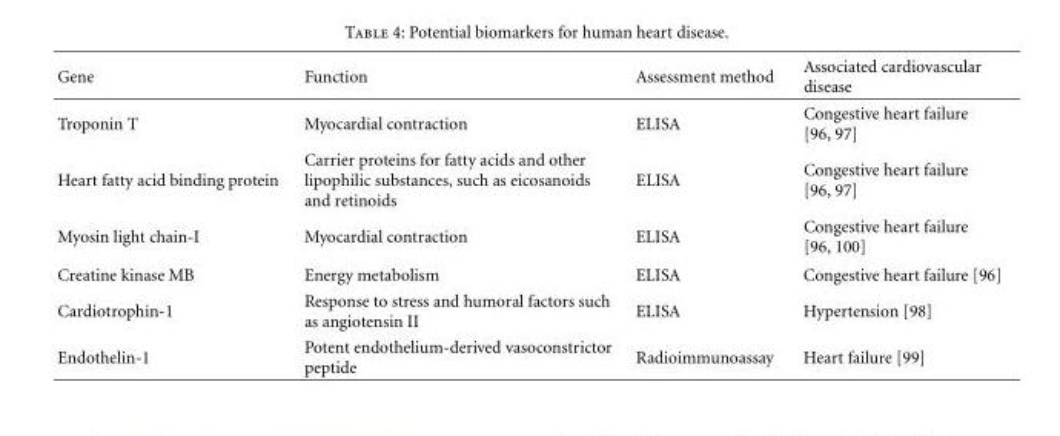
<table><thead><tr><td>Gene</td><td>Function</td><td>Assessment method</td><td>Associated cardiovascular disease</td></tr></thead><tbody><tr><td>Troponin T</td><td>Myocardial contraction</td><td>ELISA</td><td>Congestive heart failure [96, 97]</td></tr><tr><td>Heart fatty acid binding protein</td><td>Carrier proteins for fatty acids and other lipophilic substances, such as eicosanoids and retinoids</td><td>ELISA</td><td>Congestive heart failure [96, 97]</td></tr><tr><td>Myosin light chain-I</td><td>Myocardial contraction</td><td>ELISA</td><td>Congestive heart failure [96, 100]</td></tr><tr><td>Creatine kinase MB</td><td>Energy metabolism</td><td>ELISA</td><td>Congestive heart failure [96]</td></tr><tr><td>Cardiotrophin-1</td><td>Response to stress and humoral factors such as angiotensin II</td><td>ELISA</td><td>Hypertension [98]</td></tr><tr><td>Endothelin-1</td><td>Potent endothelium-derived vasoconstrictor peptide</td><td>Radioimmunoassay</td><td>Heart failure [99]</td></tr></tbody></table>